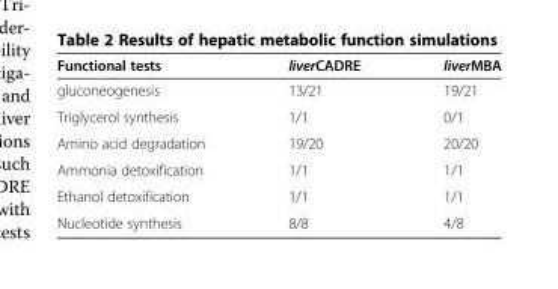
<table><thead><tr><td>Functional tests</td><td>liverCADRE</td><td>liverMBA</td></tr></thead><tbody><tr><td>gluconeogenesis</td><td>13/21</td><td>19/21</td></tr><tr><td>Triglycerol synthesis</td><td>1/1</td><td>0/1</td></tr><tr><td>Amino acid degradation</td><td>19/20</td><td>20/20</td></tr><tr><td>Ammonia detoxification</td><td>1/1</td><td>1/1</td></tr><tr><td>Ethanol detoxification</td><td>1/1</td><td>1/1</td></tr><tr><td>Nucleotide synthesis</td><td>8/8</td><td>4/8</td></tr></tbody></table>